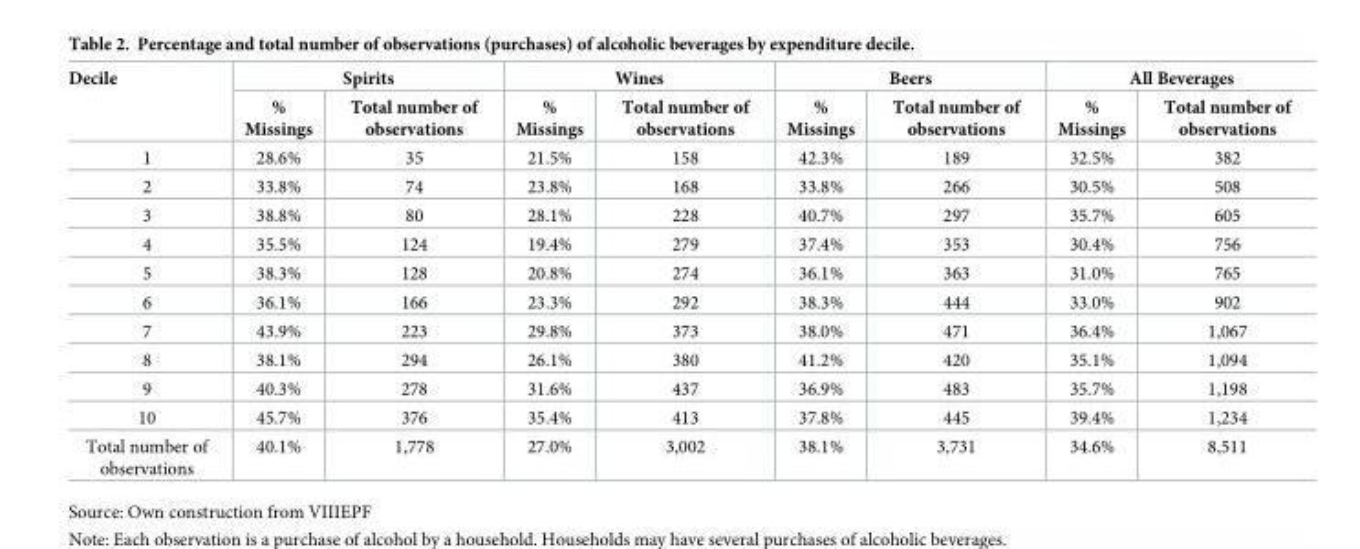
<table><thead><tr><td rowspan="2">Decile</td><td colspan="2">Spirits</td><td colspan="2">Wines</td><td colspan="2">Beers</td><td colspan="2">All Beverages</td></tr><tr><td>% Missings</td><td>Total number of observations</td><td>% Missings</td><td>Total number of observations</td><td>% Missings</td><td>Total number of observations</td><td>% Missings</td><td>Total number of observations</td></tr></thead><tbody><tr><td>1</td><td>28.6%</td><td>35</td><td>21.5%</td><td>158</td><td>42.3%</td><td>189</td><td>32.5%</td><td>382</td></tr><tr><td>2</td><td>33.8%</td><td>74</td><td>23.8%</td><td>168</td><td>33.8%</td><td>266</td><td>30.5%</td><td>508</td></tr><tr><td>3</td><td>38.8%</td><td>80</td><td>28.1%</td><td>228</td><td>40.7%</td><td>297</td><td>35.7%</td><td>605</td></tr><tr><td>4</td><td>35.5%</td><td>124</td><td>19.4%</td><td>279</td><td>37.4%</td><td>353</td><td>30.4%</td><td>756</td></tr><tr><td>5</td><td>38.3%</td><td>128</td><td>20.8%</td><td>274</td><td>36.1%</td><td>363</td><td>31.0%</td><td>765</td></tr><tr><td>6</td><td>36.1%</td><td>166</td><td>23.3%</td><td>292</td><td>38.3%</td><td>444</td><td>33.0%</td><td>902</td></tr><tr><td>7</td><td>43.9%</td><td>223</td><td>29.8%</td><td>373</td><td>38.0%</td><td>471</td><td>36.4%</td><td>1,067</td></tr><tr><td>8</td><td>38.1%</td><td>294</td><td>26.1%</td><td>380</td><td>41.2%</td><td>420</td><td>35.1%</td><td>1,094</td></tr><tr><td>9</td><td>40.3%</td><td>278</td><td>31.6%</td><td>437</td><td>36.9%</td><td>483</td><td>35.7%</td><td>1,198</td></tr><tr><td>10</td><td>45.7%</td><td>376</td><td>35.4%</td><td>413</td><td>37.8%</td><td>445</td><td>39.4%</td><td>1,234</td></tr><tr><td>Total number of observations</td><td>40.1%</td><td>1,778</td><td>27.0%</td><td>3,002</td><td>38.1%</td><td>3,731</td><td>34.6%</td><td>8,511</td></tr></tbody></table>